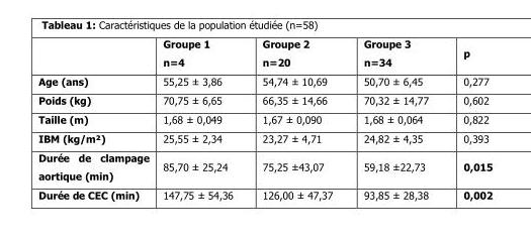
<table><thead><tr><td></td><td>Groupe 1 n=4</td><td>Groupe 2 n=20</td><td>Groupe 3 n=34</td><td>p</td></tr></thead><tbody><tr><td>Age (ans)</td><td>55,25 ± 3,86</td><td>54,74 ± 10,69</td><td>50,70 ± 6,45</td><td>0,277</td></tr><tr><td>Poids (kg)</td><td>70,75 ± 6,65</td><td>66,35 ± 14,66</td><td>70,32 ± 14,77</td><td>0,602</td></tr><tr><td>Taille (m)</td><td>1,68 ± 0,049</td><td>1,67 ± 0,090</td><td>1,68 ± 0,064</td><td>0,822</td></tr><tr><td>IBM (kg/m²)</td><td>25,55 ± 2,34</td><td>23,27 ± 4,71</td><td>24,82 ± 4,35</td><td>0,393</td></tr><tr><td>Durée de clampage aortique (min)</td><td>85,70 ± 25,24</td><td>75,25 ±43,07</td><td>59,18 ±22,73</td><td>0,015</td></tr><tr><td>Durée de CEC (min)</td><td>147,75 ± 54,36</td><td>126,00 ± 47,37</td><td>93,85 ± 28,38</td><td>0,002</td></tr></tbody></table>